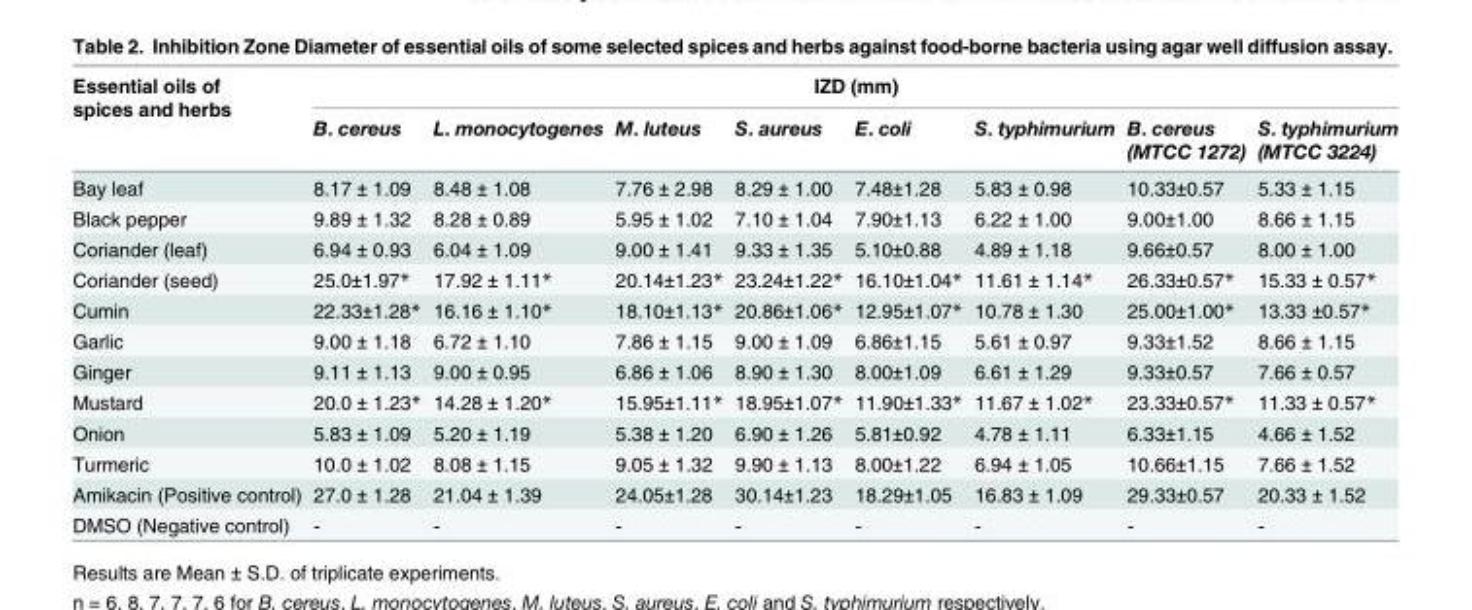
<table><thead><tr><td rowspan="2">Essential oils of spices and herbs</td><td colspan="8">IZD (mm)</td></tr><tr><td>B. cereus</td><td>L. monocytogenes</td><td>M. luteus</td><td>S. aureus</td><td>E. coli</td><td>S. typhimurium</td><td>B. cereus (MTCC 1272)</td><td>S. typhimurium (MTCC 3224)</td></tr></thead><tbody><tr><td>Bay leaf</td><td>8.17 ± 1.09</td><td>8.48 ± 1.08</td><td>7.76 ± 2.98</td><td>8.29 ± 1.00</td><td>7.48±1.28</td><td>5.83 ± 0.98</td><td>10.33±0.57</td><td>5.33 ± 1.15</td></tr><tr><td>Black pepper</td><td>9.89 ± 1.32</td><td>8.28 ± 0.89</td><td>5.95 ± 1.02</td><td>7.10 ± 1.04</td><td>7.90±1.13</td><td>6.22 ± 1.00</td><td>9.00±1.00</td><td>8.66 ± 1.15</td></tr><tr><td>Coriander (leaf)</td><td>6.94 ± 0.93</td><td>6.04 ± 1.09</td><td>9.00 ± 1.41</td><td>9.33 ± 1.35</td><td>5.10±0.88</td><td>4.89 ± 1.18</td><td>9.66±0.57</td><td>8.00 ± 1.00</td></tr><tr><td>Coriander (seed)</td><td>25.0±1.97*</td><td>17.92 ± 1.11*</td><td>20.14±1.23*</td><td>23.24±1.22*</td><td>16.10±1.04*</td><td>11.61 ± 1.14*</td><td>26.33±0.57*</td><td>15.33 ± 0.57*</td></tr><tr><td>Cumin</td><td>22.33±1.28*</td><td>16.16 ± 1.10*</td><td>18.10±1.13*</td><td>20.86±1.06*</td><td>12.95±1.07*</td><td>10.78 ± 1.30</td><td>25.00±1.00*</td><td>13.33 ±0.57*</td></tr><tr><td>Garlic</td><td>9.00 ± 1.18</td><td>6.72 ± 1.10</td><td>7.86 ± 1.15</td><td>9.00 ± 1.09</td><td>6.86±1.15</td><td>5.61 ± 0.97</td><td>9.33±1.52</td><td>8.66 ± 1.15</td></tr><tr><td>Ginger</td><td>9.11 ± 1.13</td><td>9.00 ± 0.95</td><td>6.86 ± 1.06</td><td>8.90 ± 1.30</td><td>8.00±1.09</td><td>6.61 ± 1.29</td><td>9.33±0.57</td><td>7.66 ± 0.57</td></tr><tr><td>Mustard</td><td>20.0 ± 1.23*</td><td>14.28 ± 1.20*</td><td>15.95±1.11*</td><td>18.95±1.07*</td><td>11.90±1.33*</td><td>11.67 ± 1.02*</td><td>23.33±0.57*</td><td>11.33 ± 0.57*</td></tr><tr><td>Onion</td><td>5.83 ± 1.09</td><td>5.20 ± 1.19</td><td>5.38 ± 1.20</td><td>6.90 ± 1.26</td><td>5.81±0.92</td><td>4.78 ± 1.11</td><td>6.33±1.15</td><td>4.66 ± 1.52</td></tr><tr><td>Turmeric</td><td>10.0 ± 1.02</td><td>8.08 ± 1.15</td><td>9.05 ± 1.32</td><td>9.90 ± 1.13</td><td>8.00±1.22</td><td>6.94 ± 1.05</td><td>10.66±1.15</td><td>7.66 ± 1.52</td></tr><tr><td>Amikacin (Positive control)</td><td>27.0 ± 1.28</td><td>21.04 ± 1.39</td><td>24.05±1.28</td><td>30.14±1.23</td><td>18.29±1.05</td><td>16.83 ± 1.09</td><td>29.33±0.57</td><td>20.33 ± 1.52</td></tr><tr><td>DMSO (Negative control)</td><td>-</td><td>-</td><td>-</td><td>-</td><td>-</td><td>-</td><td>-</td><td>-</td></tr></tbody></table>